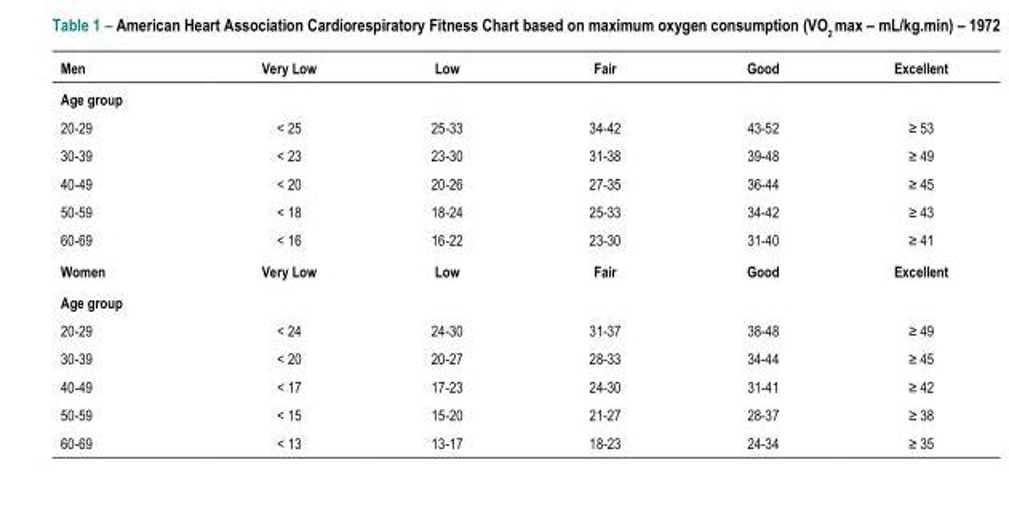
<table><thead><tr><td>Men</td><td>Very Low</td><td>Low</td><td>Fair</td><td>Good</td><td>Excellent</td></tr></thead><tbody><tr><td colspan="6">Age group</td></tr><tr><td>20-29</td><td>&lt; 25</td><td>25-33</td><td>34-42</td><td>43-52</td><td>≥ 53</td></tr><tr><td>30-39</td><td>&lt; 23</td><td>23-30</td><td>31-38</td><td>39-48</td><td>≥ 49</td></tr><tr><td>40-49</td><td>&lt; 20</td><td>20-26</td><td>27-35</td><td>36-44</td><td>≥ 45</td></tr><tr><td>50-59</td><td>&lt; 18</td><td>18-24</td><td>25-33</td><td>34-42</td><td>≥ 43</td></tr><tr><td>60-69</td><td>&lt; 16</td><td>16-22</td><td>23-30</td><td>31-40</td><td>≥ 41</td></tr><tr><td>Women</td><td>Very Low</td><td>Low</td><td>Fair</td><td>Good</td><td>Excellent</td></tr><tr><td colspan="6">Age group</td></tr><tr><td>20-29</td><td>&lt; 24</td><td>24-30</td><td>31-37</td><td>38-48</td><td>≥ 49</td></tr><tr><td>30-39</td><td>&lt; 20</td><td>20-27</td><td>28-33</td><td>34-44</td><td>≥ 45</td></tr><tr><td>40-49</td><td>&lt; 17</td><td>17-23</td><td>24-30</td><td>31-41</td><td>≥ 42</td></tr><tr><td>50-59</td><td>&lt; 15</td><td>15-20</td><td>21-27</td><td>28-37</td><td>≥ 38</td></tr><tr><td>60-69</td><td>&lt; 13</td><td>13-17</td><td>18-23</td><td>24-34</td><td>≥ 35</td></tr></tbody></table>